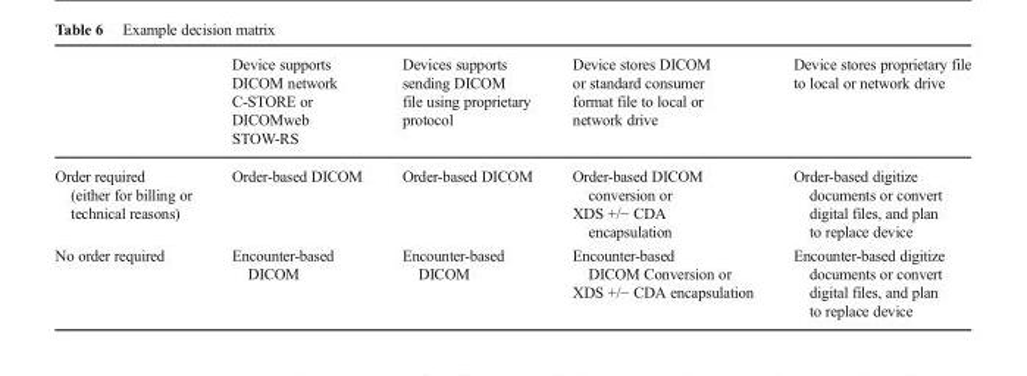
<table><thead><tr><td></td><td>Device supports DICOM network C-STORE or DICOMweb STOW-RS</td><td>Devices supports sending DICOM file using proprietary protocol</td><td>Device stores DICOM or standard consumer format file to local or network drive</td><td>Device stores proprietary file to local or network drive</td></tr></thead><tbody><tr><td>Order required (either for billing or technical reasons)</td><td>Order-based DICOM</td><td>Order-based DICOM</td><td>Order-based DICOM conversion or XDS +/− CDA encapsulation</td><td>Order-based digitize documents or convert digital files, and plan to replace device</td></tr><tr><td>No order required</td><td>Encounter-based DICOM</td><td>Encounter-based DICOM</td><td>Encounter-based DICOM Conversion or XDS +/− CDA encapsulation</td><td>Encounter-based digitize documents or convert digital files, and plan to replace device</td></tr></tbody></table>